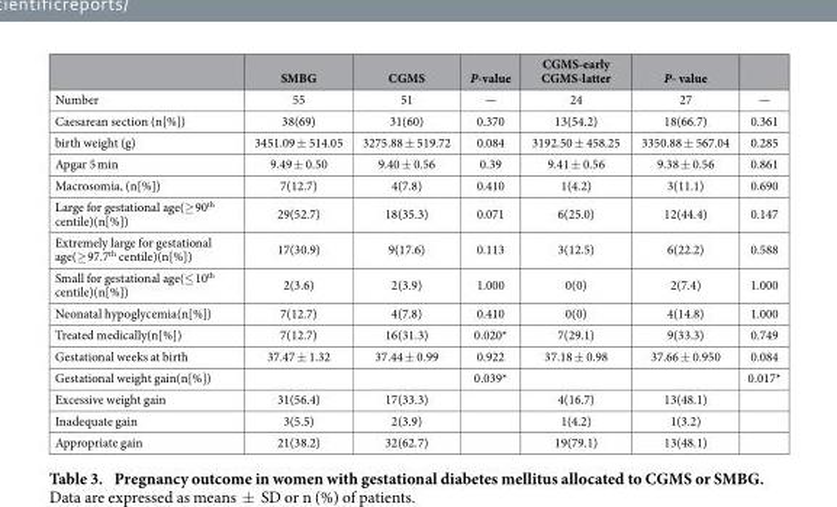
<table><thead><tr><td></td><td>SMBG</td><td>CGMS</td><td>P-value</td><td>CGMS-early CGMS-latter</td><td>P- value</td><td></td></tr></thead><tbody><tr><td>Number</td><td>55</td><td>51</td><td>—</td><td>24</td><td>27</td><td>—</td></tr><tr><td>Caesarean section (n[%])</td><td>38(69)</td><td>31(60)</td><td>0.370</td><td>13(54.2)</td><td>18(66.7)</td><td>0.361</td></tr><tr><td>birth weight (g)</td><td>3451.09 ± 514.05</td><td>3275.88 ± 519.72</td><td>0.084</td><td>3192.50 ± 458.25</td><td>3350.88 ± 567.04</td><td>0.285</td></tr><tr><td>Apgar 5 min</td><td>9.49 ± 0.50</td><td>9.40 ± 0.56</td><td>0.39</td><td>9.41 ± 0.56</td><td>9.38 ± 0.56</td><td>0.861</td></tr><tr><td>Macrosomia, (n[%])</td><td>7(12.7)</td><td>4(7.8)</td><td>0.410</td><td>1(4.2)</td><td>3(11.1)</td><td>0.690</td></tr><tr><td>Large for gestational age(≥ 90<sup>th</sup> centile)(n[%])</td><td>29(52.7)</td><td>18(35.3)</td><td>0.071</td><td>6(25.0)</td><td>12(44.4)</td><td>0.147</td></tr><tr><td>Extremely large for gestational age(≥ 97.7<sup>th</sup> centile)(n[%])</td><td>17(30.9)</td><td>9(17.6)</td><td>0.113</td><td>3(12.5)</td><td>6(22.2)</td><td>0.588</td></tr><tr><td>Small for gestational age(≤ 10<sup>th</sup> centile)(n[%])</td><td>2(3.6)</td><td>2(3.9)</td><td>1.000</td><td>0(0)</td><td>2(7.4)</td><td>1.000</td></tr><tr><td>Neonatal hypoglycemia(n[%])</td><td>7(12.7)</td><td>4(7.8)</td><td>0.410</td><td>0(0)</td><td>4(14.8)</td><td>1.000</td></tr><tr><td>Treated medically(n[%])</td><td>7(12.7)</td><td>16(31.3)</td><td>0.020*</td><td>7(29.1)</td><td>9(33.3)</td><td>0.749</td></tr><tr><td>Gestational weeks at birth</td><td>37.47 ± 1.32</td><td>37.44 ± 0.99</td><td>0.922</td><td>37.18 ± 0.98</td><td>37.66 ± 0.950</td><td>0.084</td></tr><tr><td>Gestational weight gain(n[%])</td><td></td><td></td><td>0.039*</td><td></td><td></td><td>0.017*</td></tr><tr><td>Excessive weight gain</td><td>31(56.4)</td><td>17(33.3)</td><td></td><td>4(16.7)</td><td>13(48.1)</td><td></td></tr><tr><td>Inadequate gain</td><td>3(5.5)</td><td>2(3.9)</td><td></td><td>1(4.2)</td><td>1(3.2)</td><td></td></tr><tr><td>Appropriate gain</td><td>21(38.2)</td><td>32(62.7)</td><td></td><td>19(79.1)</td><td>13(48.1)</td><td></td></tr></tbody></table>